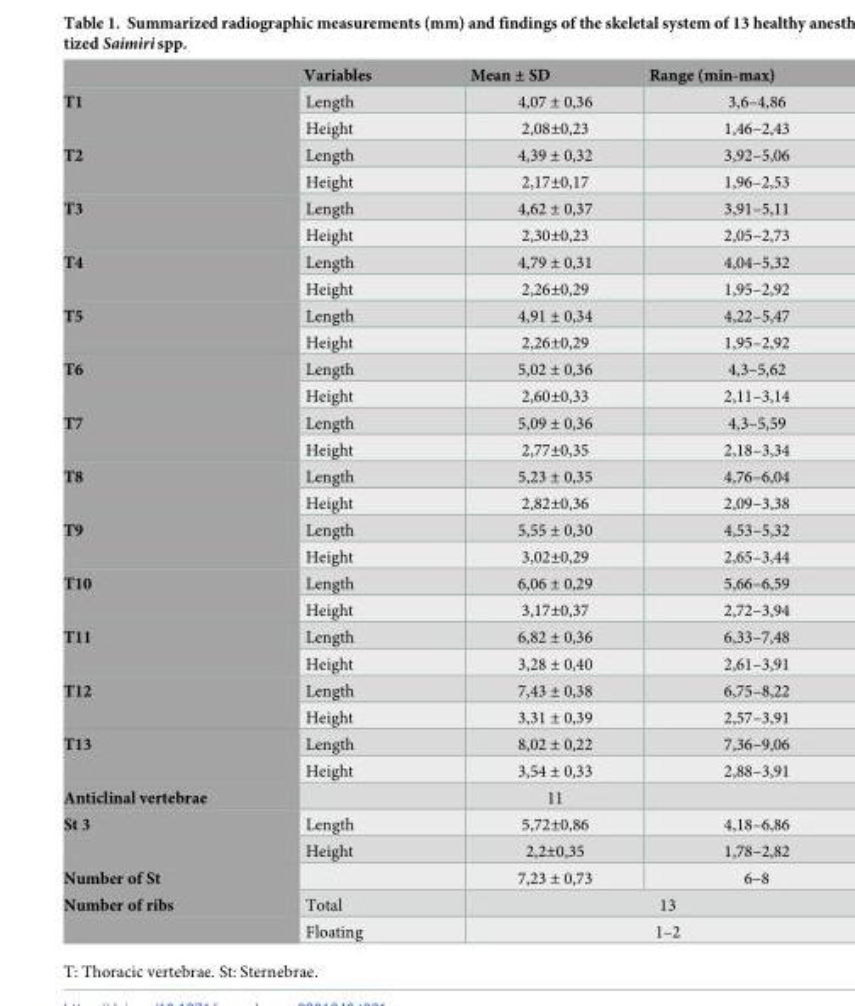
<table><thead><tr><td></td><td>Variables</td><td>Mean ± SD</td><td>Range (min-max)</td></tr></thead><tbody><tr><td rowspan="2">T1</td><td>Length</td><td>4,07 ± 0,36</td><td>3,6–4,86</td></tr><tr><td>Height</td><td>2,08±0,23</td><td>1,46–2,43</td></tr><tr><td rowspan="2">T2</td><td>Length</td><td>4,39 ± 0,32</td><td>3,92–5,06</td></tr><tr><td>Height</td><td>2,17±0,17</td><td>1,96–2,53</td></tr><tr><td rowspan="2">T3</td><td>Length</td><td>4,62 ± 0,37</td><td>3,91–5,11</td></tr><tr><td>Height</td><td>2,30±0,23</td><td>2,05–2,73</td></tr><tr><td rowspan="2">T4</td><td>Length</td><td>4,79 ± 0,31</td><td>4,04–5,32</td></tr><tr><td>Height</td><td>2,26±0,29</td><td>1,95–2,92</td></tr><tr><td rowspan="2">T5</td><td>Length</td><td>4,91 ± 0,34</td><td>4,22–5,47</td></tr><tr><td>Height</td><td>2,26±0,29</td><td>1,95–2,92</td></tr><tr><td rowspan="2">T6</td><td>Length</td><td>5,02 ± 0,36</td><td>4,3–5,62</td></tr><tr><td>Height</td><td>2,60±0,33</td><td>2,11–3,14</td></tr><tr><td rowspan="2">T7</td><td>Length</td><td>5,09 ± 0,36</td><td>4,3–5,59</td></tr><tr><td>Height</td><td>2,77±0,35</td><td>2,18–3,34</td></tr><tr><td rowspan="2">T8</td><td>Length</td><td>5,23 ± 0,35</td><td>4,76–6,04</td></tr><tr><td>Height</td><td>2,82±0,36</td><td>2,09–3,38</td></tr><tr><td rowspan="2">T9</td><td>Length</td><td>5,55 ± 0,30</td><td>4,53–5,32</td></tr><tr><td>Height</td><td>3,02±0,29</td><td>2,65–3,44</td></tr><tr><td rowspan="2">T10</td><td>Length</td><td>6,06 ± 0,29</td><td>5,66–6,59</td></tr><tr><td>Height</td><td>3,17±0,37</td><td>2,72–3,94</td></tr><tr><td rowspan="2">T11</td><td>Length</td><td>6,82 ± 0,36</td><td>6,33–7,48</td></tr><tr><td>Height</td><td>3,28 ± 0,40</td><td>2,61–3,91</td></tr><tr><td rowspan="2">T12</td><td>Length</td><td>7,43 ± 0,38</td><td>6,75–8,22</td></tr><tr><td>Height</td><td>3,31 ± 0,39</td><td>2,57–3,91</td></tr><tr><td rowspan="2">T13</td><td>Length</td><td>8,02 ± 0,22</td><td>7,36–9,06</td></tr><tr><td>Height</td><td>3,54 ± 0,33</td><td>2,88–3,91</td></tr><tr><td>Anticlinal vertebrae</td><td></td><td>11</td><td></td></tr><tr><td rowspan="2">St 3</td><td>Length</td><td>5,72±0,86</td><td>4,18–6,86</td></tr><tr><td>Height</td><td>2,2±0,35</td><td>1,78–2,82</td></tr><tr><td>Number of St</td><td></td><td>7,23 ± 0,73</td><td>6–8</td></tr><tr><td rowspan="2">Number of ribs</td><td>Total</td><td colspan="2">13</td></tr><tr><td>Floating</td><td colspan="2">1–2</td></tr></tbody></table>